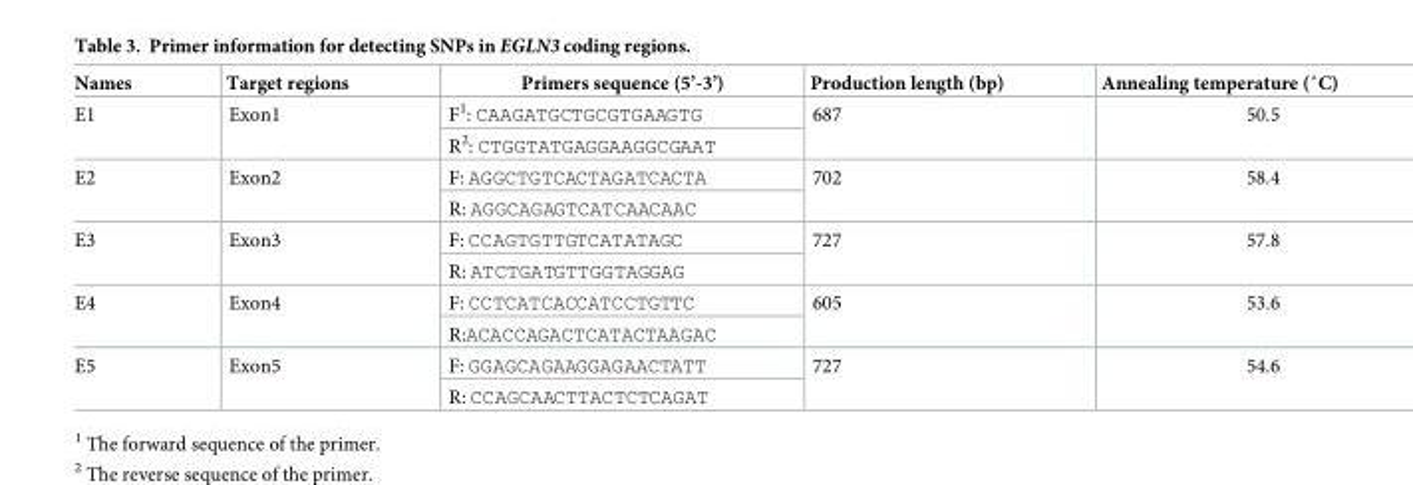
<table><thead><tr><td>Names</td><td>Target regions</td><td>Primers sequence (5’-3’)</td><td>Production length (bp)</td><td>Annealing temperature (˚C)</td></tr></thead><tbody><tr><td rowspan="2">E1</td><td rowspan="2">Exon1</td><td>F<sup>1</sup>: CAAGATGCTGCGTGAAGTG</td><td rowspan="2">687</td><td rowspan="2">50.5</td></tr><tr><td>R<sup>2</sup>: CTGGTATGAGGAAGGCGAAT</td></tr><tr><td rowspan="2">E2</td><td rowspan="2">Exon2</td><td>F: AGGCTGTCACTAGATCACTA</td><td rowspan="2">702</td><td rowspan="2">58.4</td></tr><tr><td>R: AGGCAGAGTCATCAACAAC</td></tr><tr><td rowspan="2">E3</td><td rowspan="2">Exon3</td><td>F: CCAGTGTTGTCATATAGC</td><td rowspan="2">727</td><td rowspan="2">57.8</td></tr><tr><td>R: ATCTGATGTTGGTAGGAG</td></tr><tr><td rowspan="2">E4</td><td rowspan="2">Exon4</td><td>F: CCTCATCACCATCCTGTTC</td><td rowspan="2">605</td><td rowspan="2">53.6</td></tr><tr><td>R:ACACCAGACTCATACTAAGAC</td></tr><tr><td rowspan="2">E5</td><td rowspan="2">Exon5</td><td>F: GGAGCAGAAGGAGAACTATT</td><td rowspan="2">727</td><td rowspan="2">54.6</td></tr><tr><td>R: CCAGCAACTTACTCTCAGAT</td></tr></tbody></table>